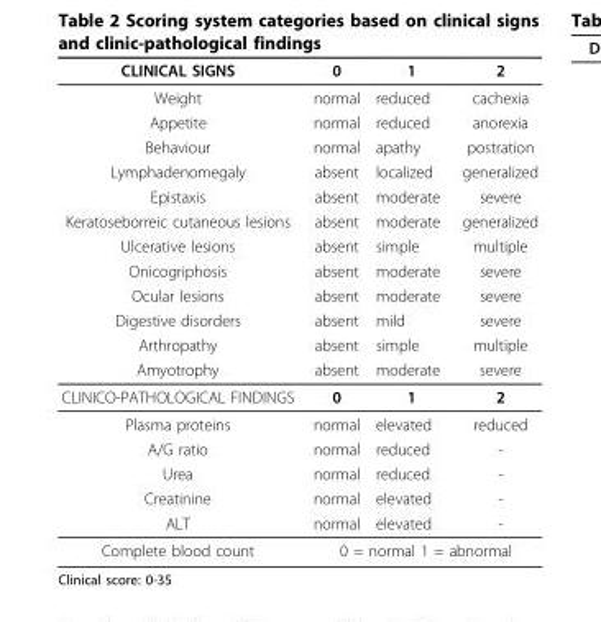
<table><thead><tr><td>CLINICAL SIGNS</td><td>0</td><td>1</td><td>2</td></tr></thead><tbody><tr><td>Weight</td><td>normal</td><td>reduced</td><td>cachexia</td></tr><tr><td>Appetite</td><td>normal</td><td>reduced</td><td>anorexia</td></tr><tr><td>Behaviour</td><td>normal</td><td>apathy</td><td>postration</td></tr><tr><td>Lymphadenomegaly</td><td>absent</td><td>localized</td><td>generalized</td></tr><tr><td>Epistaxis</td><td>absent</td><td>moderate</td><td>severe</td></tr><tr><td>Keratoseborreic cutaneous lesions</td><td>absent</td><td>moderate</td><td>generalized</td></tr><tr><td>Ulcerative lesions</td><td>absent</td><td>simple</td><td>multiple</td></tr><tr><td>Onicogriphosis</td><td>absent</td><td>moderate</td><td>severe</td></tr><tr><td>Ocular lesions</td><td>absent</td><td>moderate</td><td>severe</td></tr><tr><td>Digestive disorders</td><td>absent</td><td>mild</td><td>severe</td></tr><tr><td>Arthropathy</td><td>absent</td><td>simple</td><td>multiple</td></tr><tr><td>Amyotrophy</td><td>absent</td><td>moderate</td><td>severe</td></tr><tr><td>CLINICO-PATHOLOGICAL FINDINGS</td><td>0</td><td>1</td><td>2</td></tr><tr><td>Plasma proteins</td><td>normal</td><td>elevated</td><td>reduced</td></tr><tr><td>A/G ratio</td><td>normal</td><td>reduced</td><td>-</td></tr><tr><td>Urea</td><td>normal</td><td>reduced</td><td>-</td></tr><tr><td>Creatinine</td><td>normal</td><td>elevated</td><td>-</td></tr><tr><td>ALT</td><td>normal</td><td>elevated</td><td>-</td></tr><tr><td>Complete blood count</td><td colspan="3">0 = normal 1 = abnormal</td></tr></tbody></table>